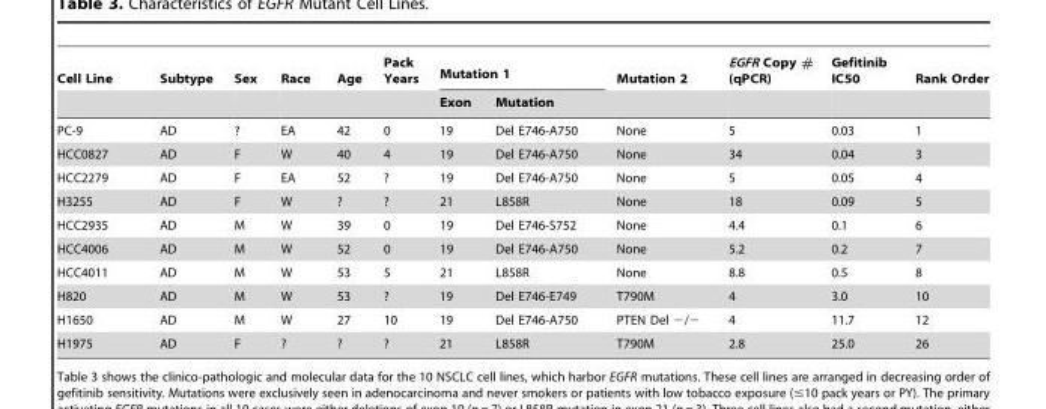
<table><thead><tr><td rowspan="2">Cell Line</td><td rowspan="2">Subtype</td><td rowspan="2">Sex</td><td rowspan="2">Race</td><td rowspan="2">Age</td><td rowspan="2">Pack Years</td><td colspan="2">Mutation 1</td><td rowspan="2">Mutation 2</td><td rowspan="2">EGFR Copy # (qPCR)</td><td rowspan="2">Gefitinib IC50</td><td rowspan="2">Rank Order</td></tr><tr><td>Exon</td><td>Mutation</td></tr></thead><tbody><tr><td>PC-9</td><td>AD</td><td>?</td><td>EA</td><td>42</td><td>0</td><td>19</td><td>Del E746-A750</td><td>None</td><td>5</td><td>0.03</td><td>1</td></tr><tr><td>HCC0827</td><td>AD</td><td>F</td><td>W</td><td>40</td><td>4</td><td>19</td><td>Del E746-A750</td><td>None</td><td>34</td><td>0.04</td><td>3</td></tr><tr><td>HCC2279</td><td>AD</td><td>F</td><td>EA</td><td>52</td><td>?</td><td>19</td><td>Del E746-A750</td><td>None</td><td>5</td><td>0.05</td><td>4</td></tr><tr><td>H3255</td><td>AD</td><td>F</td><td>W</td><td>?</td><td>?</td><td>21</td><td>L858R</td><td>None</td><td>18</td><td>0.09</td><td>5</td></tr><tr><td>HCC2935</td><td>AD</td><td>M</td><td>W</td><td>39</td><td>0</td><td>19</td><td>Del E746-S752</td><td>None</td><td>4.4</td><td>0.1</td><td>6</td></tr><tr><td>HCC4006</td><td>AD</td><td>M</td><td>W</td><td>52</td><td>0</td><td>19</td><td>Del E746-A750</td><td>None</td><td>5.2</td><td>0.2</td><td>7</td></tr><tr><td>HCC4011</td><td>AD</td><td>M</td><td>W</td><td>53</td><td>5</td><td>21</td><td>L858R</td><td>None</td><td>8.8</td><td>0.5</td><td>8</td></tr><tr><td>H820</td><td>AD</td><td>M</td><td>W</td><td>53</td><td>?</td><td>19</td><td>Del E746-E749</td><td>T790M</td><td>4</td><td>3.0</td><td>10</td></tr><tr><td>H1650</td><td>AD</td><td>M</td><td>W</td><td>27</td><td>10</td><td>19</td><td>Del E746-A750</td><td>PTEN Del −/−</td><td>4</td><td>11.7</td><td>12</td></tr><tr><td>H1975</td><td>AD</td><td>F</td><td>?</td><td>?</td><td>?</td><td>21</td><td>L858R</td><td>T790M</td><td>2.8</td><td>25.0</td><td>26</td></tr></tbody></table>